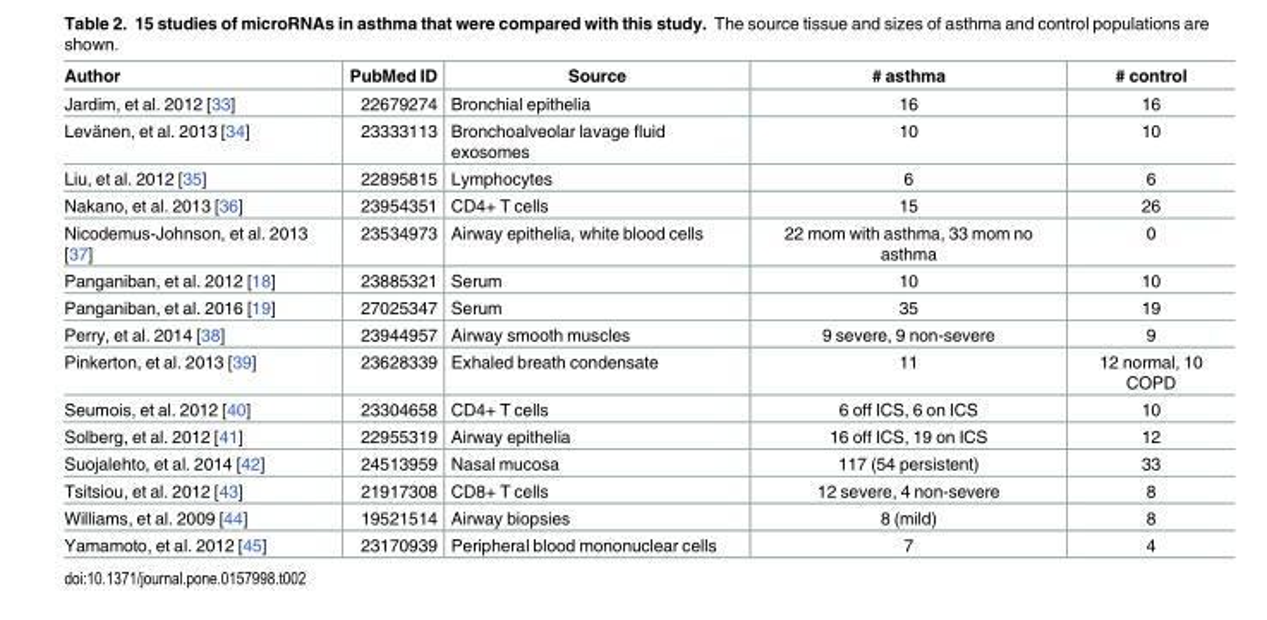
<table><thead><tr><td>Author</td><td>PubMed ID</td><td>Source</td><td># asthma</td><td># control</td></tr></thead><tbody><tr><td>Jardim, et al. 2012 [33]</td><td>22679274</td><td>Bronchial epithelia</td><td>16</td><td>16</td></tr><tr><td>Levänen, et al. 2013 [34]</td><td>23333113</td><td>Bronchoalveolar lavage fluid exosomes</td><td>10</td><td>10</td></tr><tr><td>Liu, et al. 2012 [35]</td><td>22895815</td><td>Lymphocytes</td><td>6</td><td>6</td></tr><tr><td>Nakano, et al. 2013 [36]</td><td>23954351</td><td>CD4+ T cells</td><td>15</td><td>26</td></tr><tr><td>Nicodemus-Johnson, et al. 2013 [37]</td><td>23534973</td><td>Airway epithelia, white blood cells</td><td>22 mom with asthma, 33 mom no asthma</td><td>0</td></tr><tr><td>Panganiban, et al. 2012 [18]</td><td>23885321</td><td>Serum</td><td>10</td><td>10</td></tr><tr><td>Panganiban, et al. 2016 [19]</td><td>27025347</td><td>Serum</td><td>35</td><td>19</td></tr><tr><td>Perry, et al. 2014 [38]</td><td>23944957</td><td>Airway smooth muscles</td><td>9 severe, 9 non-severe</td><td>9</td></tr><tr><td>Pinkerton, et al. 2013 [39]</td><td>23628339</td><td>Exhaled breath condensate</td><td>11</td><td>12 normal, 10 COPD</td></tr><tr><td>Seumois, et al. 2012 [40]</td><td>23304658</td><td>CD4+ T cells</td><td>6 off ICS, 6 on ICS</td><td>10</td></tr><tr><td>Solberg, et al. 2012 [41]</td><td>22955319</td><td>Airway epithelia</td><td>16 off ICS, 19 on ICS</td><td>12</td></tr><tr><td>Suojalehto, et al. 2014 [42]</td><td>24513959</td><td>Nasal mucosa</td><td>117 (54 persistent)</td><td>33</td></tr><tr><td>Tsitsiou, et al. 2012 [43]</td><td>21917308</td><td>CD8+ T cells</td><td>12 severe, 4 non-severe</td><td>8</td></tr><tr><td>Williams, et al. 2009 [44]</td><td>19521514</td><td>Airway biopsies</td><td>8 (mild)</td><td>8</td></tr><tr><td>Yamamoto, et al. 2012 [45]</td><td>23170939</td><td>Peripheral blood mononuclear cells</td><td>7</td><td>4</td></tr></tbody></table>